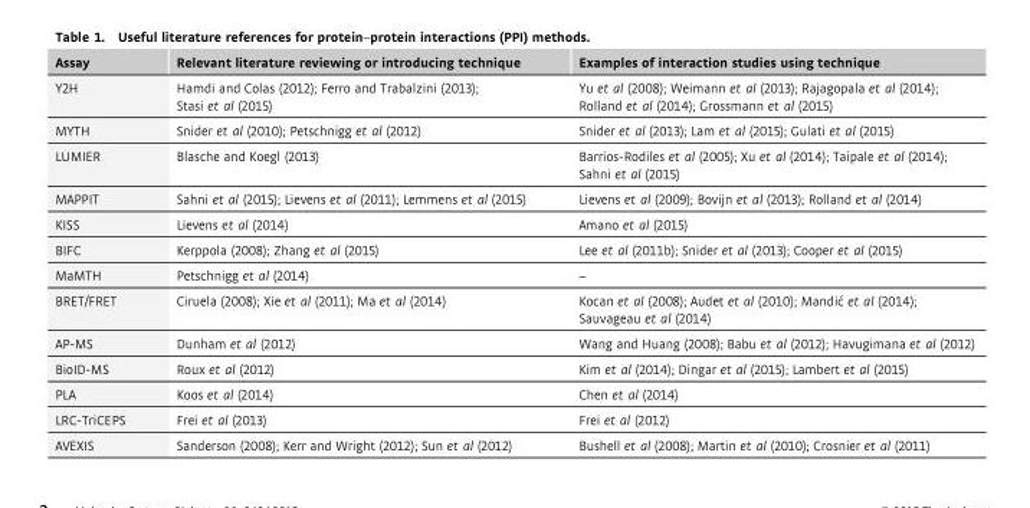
<table><thead><tr><td>Assay</td><td>Relevant literature reviewing or introducing technique</td><td>Examples of interaction studies using technique</td></tr></thead><tbody><tr><td>Y2H</td><td>Hamdi and Colas (2012); Ferro and Trabalzini (2013); Stasi et al (2015)</td><td>Yu et al (2008); Weimann et al (2013); Rajagopala et al (2014); Rolland et al (2014); Grossmann et al (2015)</td></tr><tr><td>MYTH</td><td>Snider et al (2010); Petschnigg et al (2012)</td><td>Snider et al (2013); Lam et al (2015); Gulati et al (2015)</td></tr><tr><td>LUMIER</td><td>Blasche and Koegl (2013)</td><td>Barrios-Rodiles et al (2005); Xu et al (2014); Taipale et al (2014); Sahni et al (2015)</td></tr><tr><td>MAPPIT</td><td>Sahni et al (2015); Lievens et al (2011); Lemmens et al (2015)</td><td>Lievens et al (2009); Bovijn et al (2013); Rolland et al (2014)</td></tr><tr><td>KISS</td><td>Lievens et al (2014)</td><td>Amano et al (2015)</td></tr><tr><td>BIFC</td><td>Kerppola (2008); Zhang et al (2015)</td><td>Lee et al (2011b); Snider et al (2013); Cooper et al (2015)</td></tr><tr><td>MaMTH</td><td>Petschnigg et al (2014)</td><td>–</td></tr><tr><td>BRET/FRET</td><td>Ciruela (2008); Xie et al (2011); Ma et al (2014)</td><td>Kocan et al (2008); Audet et al (2010); Mandi�c et al (2014); Sauvageau et al (2014)</td></tr><tr><td>AP-MS</td><td>Dunham et al (2012)</td><td>Wang and Huang (2008); Babu et al (2012); Havugimana et al (2012)</td></tr><tr><td>BioID-MS</td><td>Roux et al (2012)</td><td>Kim et al (2014); Dingar et al (2015); Lambert et al (2015)</td></tr><tr><td>PLA</td><td>Koos et al (2014)</td><td>Chen et al (2014)</td></tr><tr><td>LRC-TriCEPS</td><td>Frei et al (2013)</td><td>Frei et al (2012)</td></tr><tr><td>AVEXIS</td><td>Sanderson (2008); Kerr and Wright (2012); Sun et al (2012)</td><td>Bushell et al (2008); Martin et al (2010); Crosnier et al (2011)</td></tr></tbody></table>